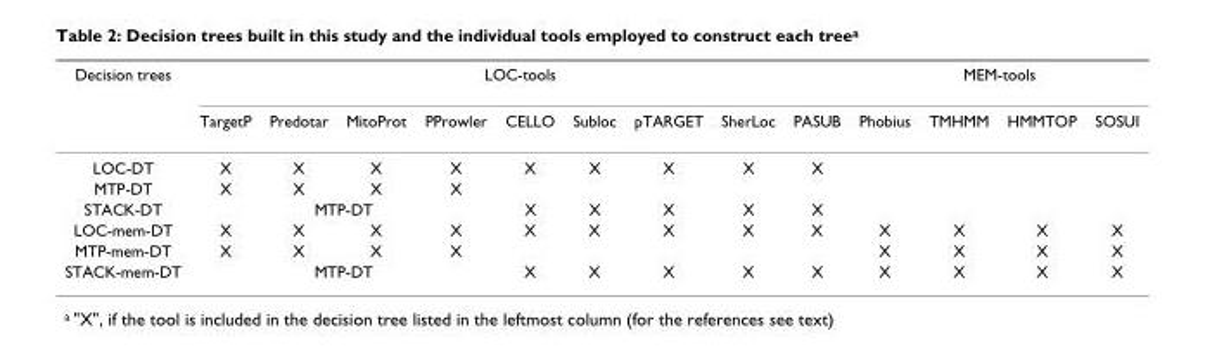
<table><thead><tr><td rowspan="2">Decision trees</td><td colspan="9">LOC-tools</td><td colspan="4">MEM-tools</td></tr><tr><td>TargetP</td><td>Predotar</td><td>MitoProt</td><td>PProwler</td><td>CELLO</td><td>Subloc</td><td>pTARGET</td><td>SherLoc</td><td>PASUB</td><td>Phobius</td><td>TMHMM</td><td>HMMTOP</td><td>SOSUI</td></tr></thead><tbody><tr><td>LOC-DT</td><td>X</td><td>X</td><td>X</td><td>X</td><td>X</td><td>X</td><td>X</td><td>X</td><td>X</td><td></td><td></td><td></td><td></td></tr><tr><td>MTP-DT</td><td>X</td><td>X</td><td>X</td><td>X</td><td></td><td></td><td></td><td></td><td></td><td></td><td></td><td></td><td></td></tr><tr><td>STACK-DT</td><td colspan="4">MTP-DT</td><td>X</td><td>X</td><td>X</td><td>X</td><td>X</td><td></td><td></td><td></td><td></td></tr><tr><td>LOC-mem-DT</td><td>X</td><td>X</td><td>X</td><td>X</td><td>X</td><td>X</td><td>X</td><td>X</td><td>X</td><td>X</td><td>X</td><td>X</td><td>X</td></tr><tr><td>MTP-mem-DT</td><td>X</td><td>X</td><td>X</td><td>X</td><td></td><td></td><td></td><td></td><td></td><td>X</td><td>X</td><td>X</td><td>X</td></tr><tr><td>STACK-mem-DT</td><td colspan="4">MTP-DT</td><td>X</td><td>X</td><td>X</td><td>X</td><td>X</td><td>X</td><td>X</td><td>X</td><td>X</td></tr></tbody></table>